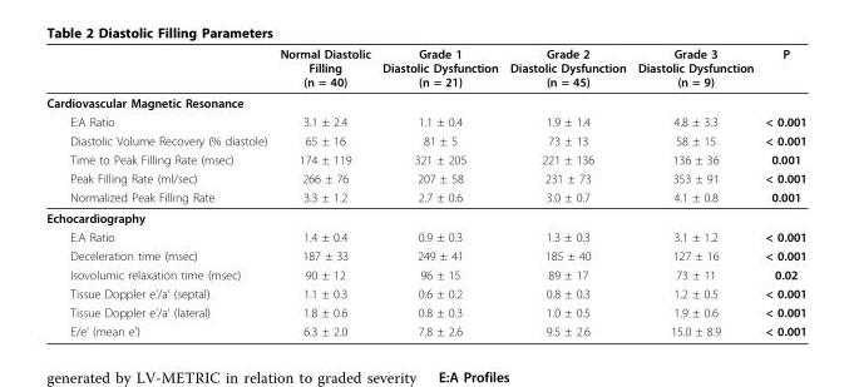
<table><thead><tr><td></td><td>Normal Diastolic Filling (n = 40)</td><td>Grade 1 Diastolic Dysfunction (n = 21)</td><td>Grade 2 Diastolic Dysfunction (n = 45)</td><td>Grade 3 Diastolic Dysfunction (n = 9)</td><td>P</td></tr></thead><tbody><tr><td colspan="6">Cardiovascular Magnetic Resonance</td></tr><tr><td>E:A Ratio</td><td>3.1 ± 2.4</td><td>1.1 ± 0.4</td><td>1.9 ± 1.4</td><td>4.8 ± 3.3</td><td>&lt; 0.001</td></tr><tr><td>Diastolic Volume Recovery (% diastole)</td><td>65 ± 16</td><td>81 ± 5</td><td>73 ± 13</td><td>58 ± 15</td><td>&lt; 0.001</td></tr><tr><td>Time to Peak Filling Rate (msec)</td><td>174 ± 119</td><td>321 ± 205</td><td>221 ± 136</td><td>136 ± 36</td><td>0.001</td></tr><tr><td>Peak Filling Rate (ml/sec)</td><td>266 ± 76</td><td>207 ± 58</td><td>231 ± 73</td><td>353 ± 91</td><td>&lt; 0.001</td></tr><tr><td>Normalized Peak Filling Rate</td><td>3.3 ± 1.2</td><td>2.7 ± 0.6</td><td>3.0 ± 0.7</td><td>4.1 ± 0.8</td><td>0.001</td></tr><tr><td colspan="6">Echocardiography</td></tr><tr><td>E:A Ratio</td><td>1.4 ± 0.4</td><td>0.9 ± 0.3</td><td>1.3 ± 0.3</td><td>3.1 ± 1.2</td><td>&lt; 0.001</td></tr><tr><td>Deceleration time (msec)</td><td>187 ± 33</td><td>249 ± 41</td><td>185 ± 40</td><td>127 ± 16</td><td>&lt; 0.001</td></tr><tr><td>Isovolumic relaxation time (msec)</td><td>90 ± 12</td><td>96 ± 15</td><td>89 ± 17</td><td>73 ± 11</td><td>0.02</td></tr><tr><td>Tissue Doppler e’/a’ (septal)</td><td>1.1 ± 0.3</td><td>0.6 ± 0.2</td><td>0.8 ± 0.3</td><td>1.2 ± 0.5</td><td>&lt; 0.001</td></tr><tr><td>Tissue Doppler e’/a’ (lateral)</td><td>1.8 ± 0.6</td><td>0.8 ± 0.3</td><td>1.0 ± 0.5</td><td>1.9 ± 0.6</td><td>&lt; 0.001</td></tr><tr><td>E/e’ (mean e’)</td><td>6.3 ± 2.0</td><td>7.8 ± 2.6</td><td>9.5 ± 2.6</td><td>15.0 ± 8.9</td><td>&lt; 0.001</td></tr></tbody></table>